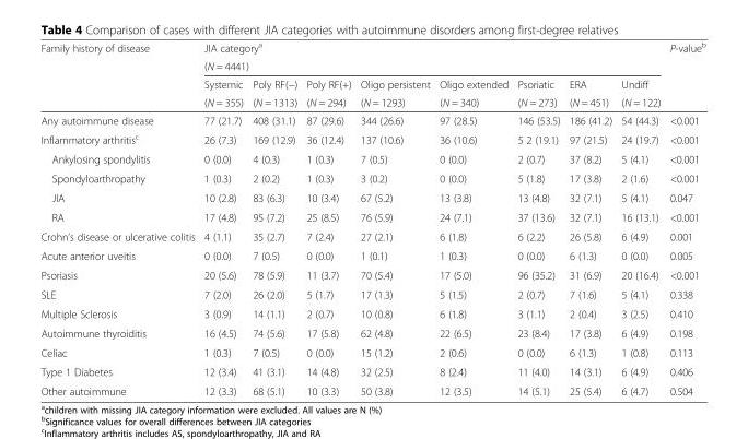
<table><thead><tr><td rowspan="4">Family history of disease</td><td rowspan="2" colspan="8">JIA category<sup>a</sup> (N = 4441)</td><td rowspan="4">P-value<sup>b</sup></td></tr><tr></tr><tr><td rowspan="2">Systemic (N = 355)</td><td rowspan="2">Poly RF(−) (N = 1313)</td><td rowspan="2">Poly RF(+) (N = 294)</td><td rowspan="2">Oligo persistent (N = 1293)</td><td rowspan="2">Oligo extended (N = 340)</td><td rowspan="2">Psoriatic (N = 273)</td><td rowspan="2">ERA (N = 451)</td><td rowspan="2">Undiff (N = 122)</td></tr><tr></tr></thead><tbody><tr><td>Any autoimmune disease</td><td>77 (21.7)</td><td>408 (31.1)</td><td>87 (29.6)</td><td>344 (26.6)</td><td>97 (28.5)</td><td>146 (53.5)</td><td>186 (41.2)</td><td>54 (44.3)</td><td>&lt;0.001</td></tr><tr><td>Inflammatory arthritis<sup>c</sup></td><td>26 (7.3)</td><td>169 (12.9)</td><td>36 (12.4)</td><td>137 (10.6)</td><td>36 (10.6)</td><td>5 2 (19.1)</td><td>97 (21.5)</td><td>24 (19.7)</td><td>&lt;0.001</td></tr><tr><td>Ankylosing spondylitis</td><td>0 (0.0)</td><td>4 (0.3)</td><td>1 (0.3)</td><td>7 (0.5)</td><td>0 (0.0)</td><td>2 (0.7)</td><td>37 (8.2)</td><td>5 (4.1)</td><td>&lt;0.001</td></tr><tr><td>Spondyloarthropathy</td><td>1 (0.3)</td><td>2 (0.2)</td><td>1 (0.3)</td><td>3 (0.2)</td><td>0 (0.0)</td><td>5 (1.8)</td><td>17 (3.8)</td><td>2 (1.6)</td><td>&lt;0.001</td></tr><tr><td>JIA</td><td>10 (2.8)</td><td>83 (6.3)</td><td>10 (3.4)</td><td>67 (5.2)</td><td>13 (3.8)</td><td>13 (4.8)</td><td>32 (7.1)</td><td>5 (4.1)</td><td>0.047</td></tr><tr><td>RA</td><td>17 (4.8)</td><td>95 (7.2)</td><td>25 (8.5)</td><td>76 (5.9)</td><td>24 (7.1)</td><td>37 (13.6)</td><td>32 (7.1)</td><td>16 (13.1)</td><td>&lt;0.001</td></tr><tr><td>Crohn’s disease or ulcerative colitis</td><td>4 (1.1)</td><td>35 (2.7)</td><td>7 (2.4)</td><td>27 (2.1)</td><td>6 (1.8)</td><td>6 (2.2)</td><td>26 (5.8)</td><td>6 (4.9)</td><td>0.001</td></tr><tr><td>Acute anterior uveitis</td><td>0 (0.0)</td><td>7 (0.5)</td><td>0 (0.0)</td><td>1 (0.1)</td><td>1 (0.3)</td><td>0 (0.0)</td><td>6 (1.3)</td><td>0 (0.0)</td><td>0.005</td></tr><tr><td>Psoriasis</td><td>20 (5.6)</td><td>78 (5.9)</td><td>11 (3.7)</td><td>70 (5.4)</td><td>17 (5.0)</td><td>96 (35.2)</td><td>31 (6.9)</td><td>20 (16.4)</td><td>&lt;0.001</td></tr><tr><td>SLE</td><td>7 (2.0)</td><td>26 (2.0)</td><td>5 (1.7)</td><td>17 (1.3)</td><td>5 (1.5)</td><td>2 (0.7)</td><td>7 (1.6)</td><td>5 (4.1)</td><td>0.338</td></tr><tr><td>Multiple Sclerosis</td><td>3 (0.9)</td><td>14 (1.1)</td><td>2 (0.7)</td><td>10 (0.8)</td><td>6 (1.8)</td><td>3 (1.1)</td><td>2 (0.4)</td><td>3 (2.5)</td><td>0.410</td></tr><tr><td>Autoimmune thyroiditis</td><td>16 (4.5)</td><td>74 (5.6)</td><td>17 (5.8)</td><td>62 (4.8)</td><td>22 (6.5)</td><td>23 (8.4)</td><td>17 (3.8)</td><td>6 (4.9)</td><td>0.198</td></tr><tr><td>Celiac</td><td>1 (0.3)</td><td>7 (0.5)</td><td>0 (0.0)</td><td>15 (1.2)</td><td>2 (0.6)</td><td>0 (0.0)</td><td>6 (1.3)</td><td>1 (0.8)</td><td>0.113</td></tr><tr><td>Type 1 Diabetes</td><td>12 (3.4)</td><td>41 (3.1)</td><td>14 (4.8)</td><td>32 (2.5)</td><td>8 (2.4)</td><td>11 (4.0)</td><td>14 (3.1)</td><td>6 (4.9)</td><td>0.406</td></tr><tr><td>Other autoimmune</td><td>12 (3.3)</td><td>68 (5.1)</td><td>10 (3.3)</td><td>50 (3.8)</td><td>12 (3.5)</td><td>14 (5.1)</td><td>25 (5.4)</td><td>6 (4.7)</td><td>0.504</td></tr></tbody></table>